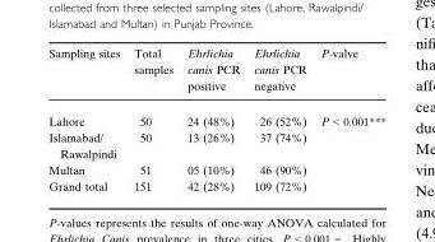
<table><thead><tr><td>Sampling sites</td><td>Total samples</td><td>Ehrlichia canis PCR positive</td><td>Ehrlichia canis PCR negative</td><td>P-valve</td></tr></thead><tbody><tr><td>Lahore</td><td>50</td><td>24 (48%)</td><td>26 (52%)</td><td rowspan="4">P &lt; 0.001***</td></tr><tr><td>Islamabad/ Rawalpindi</td><td>50</td><td>13 (26%)</td><td>37 (74%)</td></tr><tr><td>Multan</td><td>51</td><td>05 (10%)</td><td>46 (90%)</td></tr><tr><td>Grand total</td><td>151</td><td>42 (28%)</td><td>109 (72%)</td></tr></tbody></table>